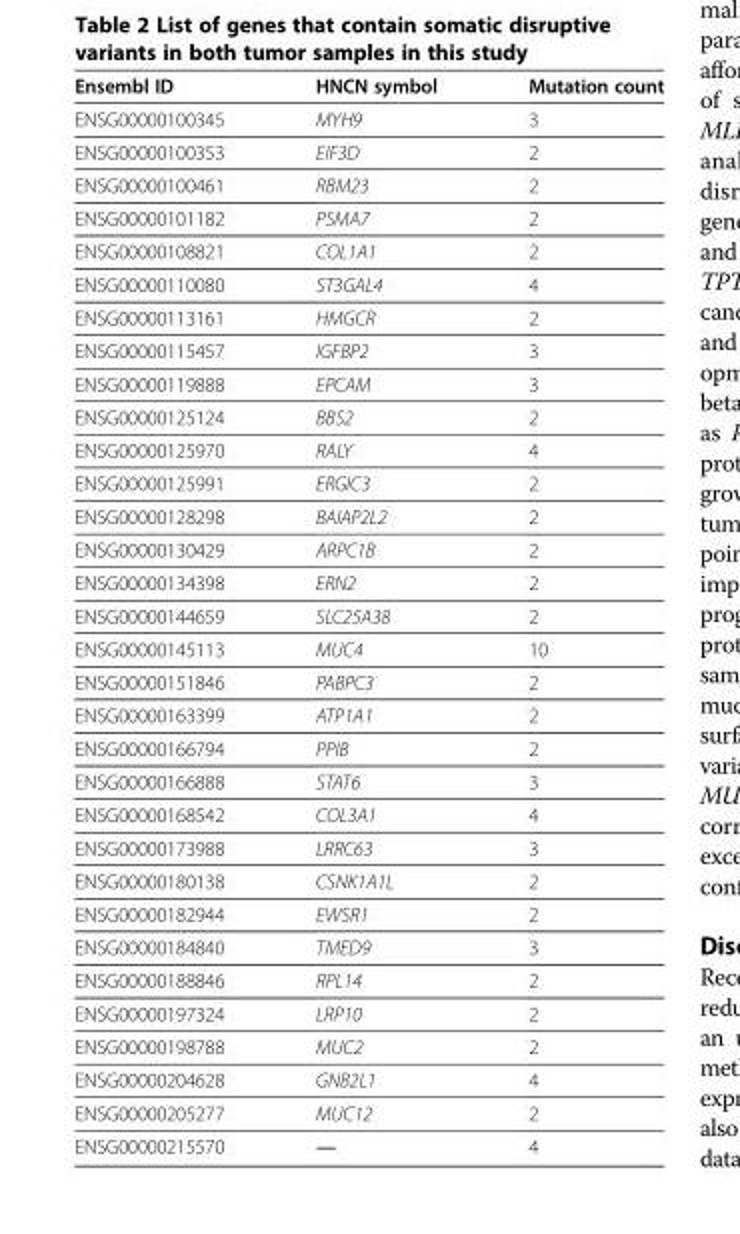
<table><thead><tr><td>Ensembl ID</td><td>HNCN symbol</td><td>Mutation count</td></tr></thead><tbody><tr><td>ENSG00000100345</td><td>MYH9</td><td>3</td></tr><tr><td>ENSG00000100353</td><td>EIF3D</td><td>2</td></tr><tr><td>ENSG00000100461</td><td>RBM23</td><td>2</td></tr><tr><td>ENSG00000101182</td><td>PSMA7</td><td>2</td></tr><tr><td>ENSG00000108821</td><td>COL1A1</td><td>2</td></tr><tr><td>ENSG00000110080</td><td>ST3GAL4</td><td>4</td></tr><tr><td>ENSG00000113161</td><td>HMGCR</td><td>2</td></tr><tr><td>ENSG00000115457</td><td>IGFBP2</td><td>3</td></tr><tr><td>ENSG00000119888</td><td>EPCAM</td><td>3</td></tr><tr><td>ENSG00000125124</td><td>BBS2</td><td>2</td></tr><tr><td>ENSG00000125970</td><td>RALY</td><td>4</td></tr><tr><td>ENSG00000125991</td><td>ERGIC3</td><td>2</td></tr><tr><td>ENSG00000128298</td><td>BAIAP2L2</td><td>2</td></tr><tr><td>ENSG00000130429</td><td>ARPC1B</td><td>2</td></tr><tr><td>ENSG00000134398</td><td>ERN2</td><td>2</td></tr><tr><td>ENSG00000144659</td><td>SLC25A38</td><td>2</td></tr><tr><td>ENSG00000145113</td><td>MUC4</td><td>10</td></tr><tr><td>ENSG00000151846</td><td>PABPC3</td><td>2</td></tr><tr><td>ENSG00000163399</td><td>ATP1A1</td><td>2</td></tr><tr><td>ENSG00000166794</td><td>PPIB</td><td>2</td></tr><tr><td>ENSG00000166888</td><td>STAT6</td><td>3</td></tr><tr><td>ENSG00000168542</td><td>COL3A1</td><td>4</td></tr><tr><td>ENSG00000173988</td><td>LRRC63</td><td>3</td></tr><tr><td>ENSG00000180138</td><td>CSNK1A1L</td><td>2</td></tr><tr><td>ENSG00000182944</td><td>EWSR1</td><td>2</td></tr><tr><td>ENSG00000184840</td><td>TMED9</td><td>3</td></tr><tr><td>ENSG00000188846</td><td>RPL14</td><td>2</td></tr><tr><td>ENSG00000197324</td><td>LRP10</td><td>2</td></tr><tr><td>ENSG00000198788</td><td>MUC2</td><td>2</td></tr><tr><td>ENSG00000204628</td><td>GNB2L1</td><td>4</td></tr><tr><td>ENSG00000205277</td><td>MUC12</td><td>2</td></tr><tr><td>ENSG00000215570</td><td>―</td><td>4</td></tr></tbody></table>